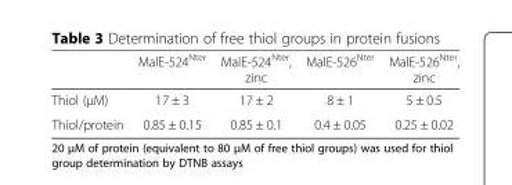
<table><thead><tr><td></td><td>MalE-524<sup>Nter</sup></td><td>MalE-524<sup>Nter</sup>, zinc</td><td>MalE-526<sup>Nter</sup></td><td>MalE-526<sup>Nter</sup>, zinc</td></tr></thead><tbody><tr><td>Thiol (μM)</td><td>17 ± 3</td><td>17 ± 2</td><td>8 ± 1</td><td>5 ± 0.5</td></tr><tr><td>Thiol/protein</td><td>0.85 ± 0.15</td><td>0.85 ± 0.1</td><td>0.4 ± 0.05</td><td>0.25 ± 0.02</td></tr></tbody></table>